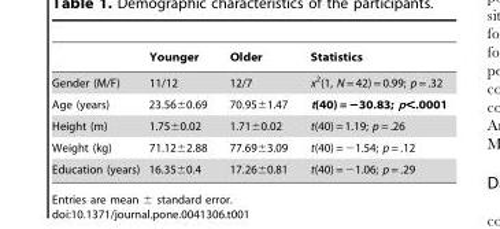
<table><thead><tr><td></td><td>Younger</td><td>Older</td><td>Statistics</td></tr></thead><tbody><tr><td>Gender (M/F)</td><td>11/12</td><td>12/7</td><td>x<sup>2</sup>(1, N = 42) = 0.99; p = .32</td></tr><tr><td>Age (years)</td><td>23.56±0.69</td><td>70.95±1.47</td><td>t(40) = −30.83; p&lt;.0001</td></tr><tr><td>Height (m)</td><td>1.75±0.02</td><td>1.71±0.02</td><td>t(40) = 1.19; p = .26</td></tr><tr><td>Weight (kg)</td><td>71.12±2.88</td><td>77.69±3.09</td><td>t(40) = −1.54; p = .12</td></tr><tr><td>Education (years)</td><td>16.35±0.4</td><td>17.26±0.81</td><td>t(40) = −1.06; p = .29</td></tr></tbody></table>